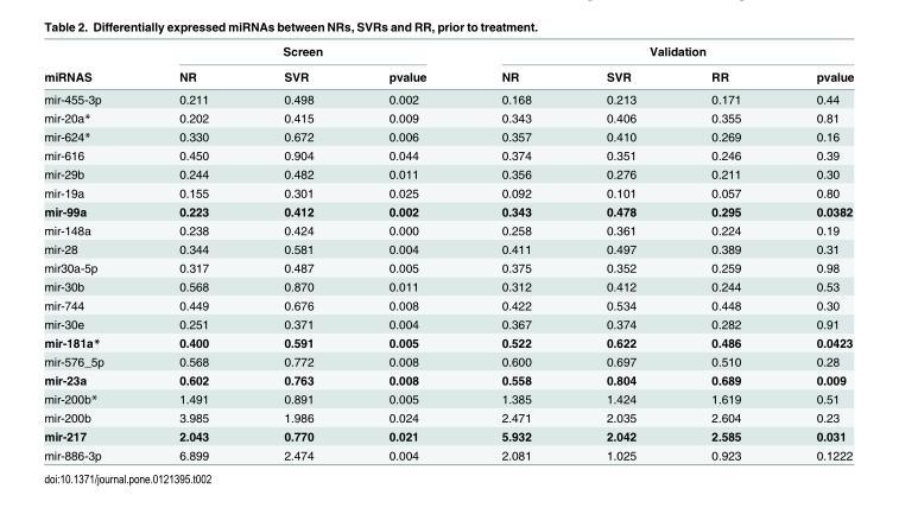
<table><thead><tr><td rowspan="2">miRNAS</td><td colspan="3">Screen</td><td colspan="4">Validation</td></tr><tr><td>NR</td><td>SVR</td><td>pvalue</td><td>NR</td><td>SVR</td><td>RR</td><td>pvalue</td></tr></thead><tbody><tr><td>mir-455-3p</td><td>0.211</td><td>0.498</td><td>0.002</td><td>0.168</td><td>0.213</td><td>0.171</td><td>0.44</td></tr><tr><td>mir-20a*</td><td>0.202</td><td>0.415</td><td>0.009</td><td>0.343</td><td>0.406</td><td>0.355</td><td>0.81</td></tr><tr><td>mir-624*</td><td>0.330</td><td>0.672</td><td>0.006</td><td>0.357</td><td>0.410</td><td>0.269</td><td>0.16</td></tr><tr><td>mir-616</td><td>0.450</td><td>0.904</td><td>0.044</td><td>0.374</td><td>0.351</td><td>0.246</td><td>0.39</td></tr><tr><td>mir-29b</td><td>0.244</td><td>0.482</td><td>0.011</td><td>0.356</td><td>0.276</td><td>0.211</td><td>0.30</td></tr><tr><td>mir-19a</td><td>0.155</td><td>0.301</td><td>0.025</td><td>0.092</td><td>0.101</td><td>0.057</td><td>0.80</td></tr><tr><td>mir-99a</td><td>0.223</td><td>0.412</td><td>0.002</td><td>0.343</td><td>0.478</td><td>0.295</td><td>0.0382</td></tr><tr><td>mir-148a</td><td>0.238</td><td>0.424</td><td>0.000</td><td>0.258</td><td>0.361</td><td>0.224</td><td>0.19</td></tr><tr><td>mir-28</td><td>0.344</td><td>0.581</td><td>0.004</td><td>0.411</td><td>0.497</td><td>0.389</td><td>0.31</td></tr><tr><td>mir30a-5p</td><td>0.317</td><td>0.487</td><td>0.005</td><td>0.375</td><td>0.352</td><td>0.259</td><td>0.98</td></tr><tr><td>mir-30b</td><td>0.568</td><td>0.870</td><td>0.011</td><td>0.312</td><td>0.412</td><td>0.244</td><td>0.53</td></tr><tr><td>mir-744</td><td>0.449</td><td>0.676</td><td>0.008</td><td>0.422</td><td>0.534</td><td>0.448</td><td>0.30</td></tr><tr><td>mir-30e</td><td>0.251</td><td>0.371</td><td>0.004</td><td>0.367</td><td>0.374</td><td>0.282</td><td>0.91</td></tr><tr><td>mir-181a*</td><td>0.400</td><td>0.591</td><td>0.005</td><td>0.522</td><td>0.622</td><td>0.486</td><td>0.0423</td></tr><tr><td>mir-576_5p</td><td>0.568</td><td>0.772</td><td>0.008</td><td>0.600</td><td>0.697</td><td>0.510</td><td>0.28</td></tr><tr><td>mir-23a</td><td>0.602</td><td>0.763</td><td>0.008</td><td>0.558</td><td>0.804</td><td>0.689</td><td>0.009</td></tr><tr><td>mir-200b*</td><td>1.491</td><td>0.891</td><td>0.005</td><td>1.385</td><td>1.424</td><td>1.619</td><td>0.51</td></tr><tr><td>mir-200b</td><td>3.985</td><td>1.986</td><td>0.024</td><td>2.471</td><td>2.035</td><td>2.604</td><td>0.23</td></tr><tr><td>mir-217</td><td>2.043</td><td>0.770</td><td>0.021</td><td>5.932</td><td>2.042</td><td>2.585</td><td>0.031</td></tr><tr><td>mir-886-3p</td><td>6.899</td><td>2.474</td><td>0.004</td><td>2.081</td><td>1.025</td><td>0.923</td><td>0.1222</td></tr></tbody></table>